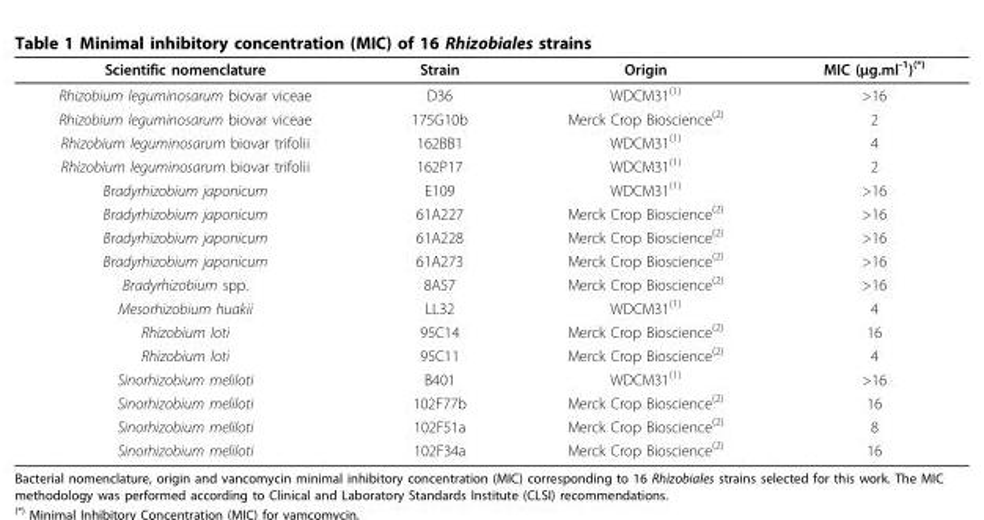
<table><thead><tr><td>Scientific nomenclature</td><td>Strain</td><td>Origin</td><td>MIC (μg.ml<sup>-1</sup>)<sup>(*)</sup></td></tr></thead><tbody><tr><td>Rhizobium leguminosarum biovar viceae</td><td>D36</td><td>WDCM31<sup>(1)</sup></td><td>&gt;16</td></tr><tr><td>Rhizobium leguminosarum biovar viceae</td><td>175G10b</td><td>Merck Crop Bioscience<sup>(2)</sup></td><td>2</td></tr><tr><td>Rhizobium leguminosarum biovar trifolii</td><td>162BB1</td><td>WDCM31<sup>(1)</sup></td><td>4</td></tr><tr><td>Rhizobium leguminosarum biovar trifolii</td><td>162P17</td><td>WDCM31<sup>(1)</sup></td><td>2</td></tr><tr><td>Bradyrhizobium japonicum</td><td>E109</td><td>WDCM31<sup>(1)</sup></td><td>&gt;16</td></tr><tr><td>Bradyrhizobium japonicum</td><td>61A227</td><td>Merck Crop Bioscience<sup>(2)</sup></td><td>&gt;16</td></tr><tr><td>Bradyrhizobium japonicum</td><td>61A228</td><td>Merck Crop Bioscience<sup>(2)</sup></td><td>&gt;16</td></tr><tr><td>Bradyrhizobium japonicum</td><td>61A273</td><td>Merck Crop Bioscience<sup>(2)</sup></td><td>&gt;16</td></tr><tr><td>Bradyrhizobium spp.</td><td>8A57</td><td>Merck Crop Bioscience<sup>(2)</sup></td><td>&gt;16</td></tr><tr><td>Mesorhizobium huakii</td><td>LL32</td><td>WDCM31<sup>(1)</sup></td><td>4</td></tr><tr><td>Rhizobium loti</td><td>95C14</td><td>Merck Crop Bioscience<sup>(2)</sup></td><td>16</td></tr><tr><td>Rhizobium loti</td><td>95C11</td><td>Merck Crop Bioscience<sup>(2)</sup></td><td>4</td></tr><tr><td>Sinorhizobium meliloti</td><td>B401</td><td>WDCM31<sup>(1)</sup></td><td>&gt;16</td></tr><tr><td>Sinorhizobium meliloti</td><td>102F77b</td><td>Merck Crop Bioscience<sup>(2)</sup></td><td>16</td></tr><tr><td>Sinorhizobium meliloti</td><td>102F51a</td><td>Merck Crop Bioscience<sup>(2)</sup></td><td>8</td></tr><tr><td>Sinorhizobium meliloti</td><td>102F34a</td><td>Merck Crop Bioscience<sup>(2)</sup></td><td>16</td></tr></tbody></table>